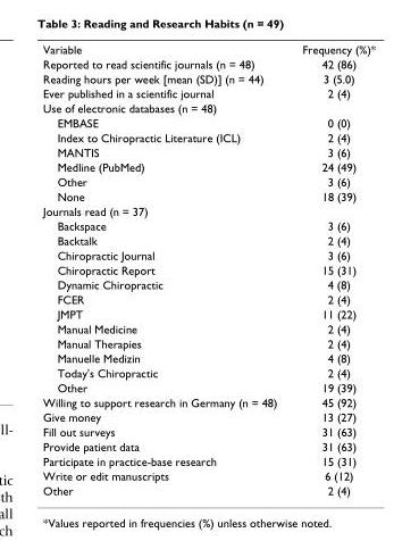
<table><tbody><tr><td>Variable</td><td>Frequency (%)*</td></tr><tr><td>Reported to read scientific journals (n = 48)</td><td>42 (86)</td></tr><tr><td>Reading hours per week [mean (SD)] (n = 44)</td><td>3 (5.0)</td></tr><tr><td>Ever published in a scientific journal</td><td>2 (4)</td></tr><tr><td colspan="2">Use of electronic databases (n = 48)</td></tr><tr><td>EMBASE</td><td>0 (0)</td></tr><tr><td>Index to Chiropractic Literature (ICL)</td><td>2 (4)</td></tr><tr><td>MANTIS</td><td>3 (6)</td></tr><tr><td>Medline (PubMed)</td><td>24 (49)</td></tr><tr><td>Other</td><td>3 (6)</td></tr><tr><td>None</td><td>18 (39)</td></tr><tr><td colspan="2">Journals read (n = 37)</td></tr><tr><td>Backspace</td><td>3 (6)</td></tr><tr><td>Backtalk</td><td>2 (4)</td></tr><tr><td>Chiropractic Journal</td><td>3 (6)</td></tr><tr><td>Chiropractic Report</td><td>15 (31)</td></tr><tr><td>Dynamic Chiropractic</td><td>4 (8)</td></tr><tr><td>FCER</td><td>2 (4)</td></tr><tr><td>JMPT</td><td>11 (22)</td></tr><tr><td>Manual Medicine</td><td>2 (4)</td></tr><tr><td>Manual Therapies</td><td>2 (4)</td></tr><tr><td>Manuelle Medizin</td><td>4 (8)</td></tr><tr><td>Today&#x27;s Chiropractic</td><td>2 (4)</td></tr><tr><td>Other</td><td>19 (39)</td></tr><tr><td>Willing to support research in Germany (n = 48)</td><td>45 (92)</td></tr><tr><td>Give money</td><td>13 (27)</td></tr><tr><td>Fill out surveys</td><td>31 (63)</td></tr><tr><td>Provide patient data</td><td>31 (63)</td></tr><tr><td>Participate in practice-base research</td><td>15 (31)</td></tr><tr><td>Write or edit manuscripts</td><td>6 (12)</td></tr><tr><td>Other</td><td>2 (4)</td></tr></tbody></table>